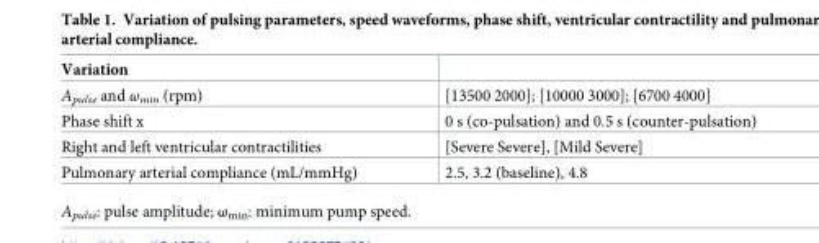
<table><thead><tr><td>Variation</td><td></td></tr></thead><tbody><tr><td>A<sub>pulse</sub> and ω<sub>min</sub> (rpm)</td><td>[13500 2000]; [10000 3000]; [6700 4000]</td></tr><tr><td>Phase shift x</td><td>0 s (co-pulsation) and 0.5 s (counter-pulsation)</td></tr><tr><td>Right and left ventricular contractilities</td><td>[Severe Severe], [Mild Severe]</td></tr><tr><td>Pulmonary arterial compliance (mL/mmHg)</td><td>2.5, 3.2 (baseline), 4.8</td></tr></tbody></table>